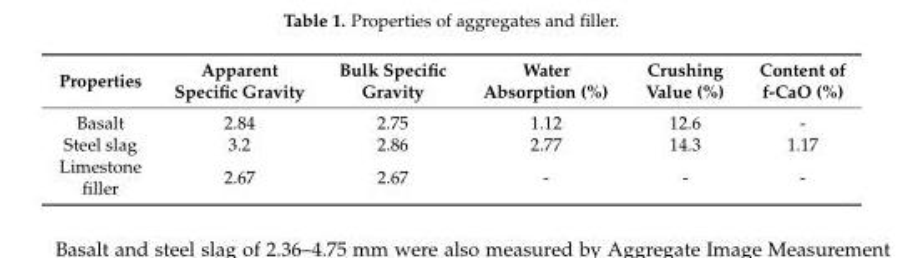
<table><thead><tr><td>Properties</td><td>Apparent Specific Gravity</td><td>Bulk Specific Gravity</td><td>Water Absorption (%)</td><td>Crushing Value (%)</td><td>Content of f-CaO (%)</td></tr></thead><tbody><tr><td>Basalt</td><td>2.84</td><td>2.75</td><td>1.12</td><td>12.6</td><td>-</td></tr><tr><td>Steel slag</td><td>3.2</td><td>2.86</td><td>2.77</td><td>14.3</td><td>1.17</td></tr><tr><td>Limestone filler</td><td>2.67</td><td>2.67</td><td>-</td><td>-</td><td>-</td></tr></tbody></table>